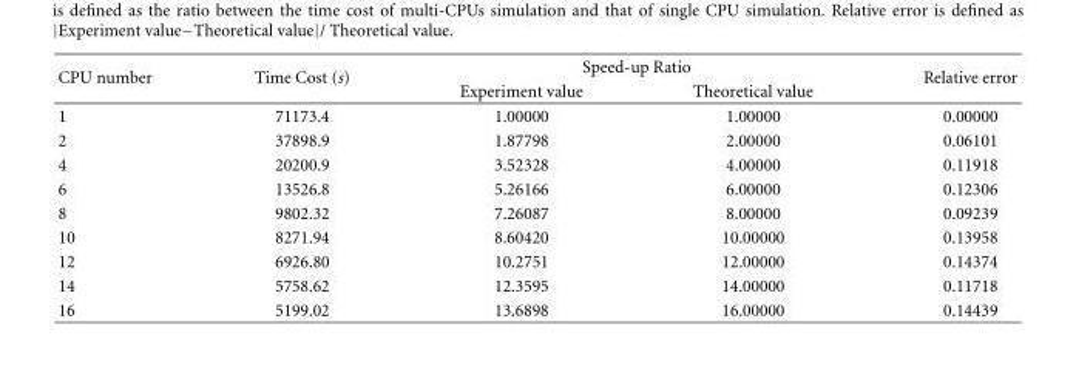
<table><thead><tr><td rowspan="2">CPU number</td><td rowspan="2">Time Cost (s)</td><td colspan="2">Speed-up Ratio</td><td rowspan="2">Relative error</td></tr><tr><td>Experiment value</td><td>Theoretical value</td></tr></thead><tbody><tr><td>1</td><td>71173.4</td><td>1.00000</td><td>1.00000</td><td>0.00000</td></tr><tr><td>2</td><td>37898.9</td><td>1.87798</td><td>2.00000</td><td>0.06101</td></tr><tr><td>4</td><td>20200.9</td><td>3.52328</td><td>4.00000</td><td>0.11918</td></tr><tr><td>6</td><td>13526.8</td><td>5.26166</td><td>6.00000</td><td>0.12306</td></tr><tr><td>8</td><td>9802.32</td><td>7.26087</td><td>8.00000</td><td>0.09239</td></tr><tr><td>10</td><td>8271.94</td><td>8.60420</td><td>10.00000</td><td>0.13958</td></tr><tr><td>12</td><td>6926.80</td><td>10.2751</td><td>12.00000</td><td>0.14374</td></tr><tr><td>14</td><td>5758.62</td><td>12.3595</td><td>14.00000</td><td>0.11718</td></tr><tr><td>16</td><td>5199.02</td><td>13.6898</td><td>16.00000</td><td>0.14439</td></tr></tbody></table>